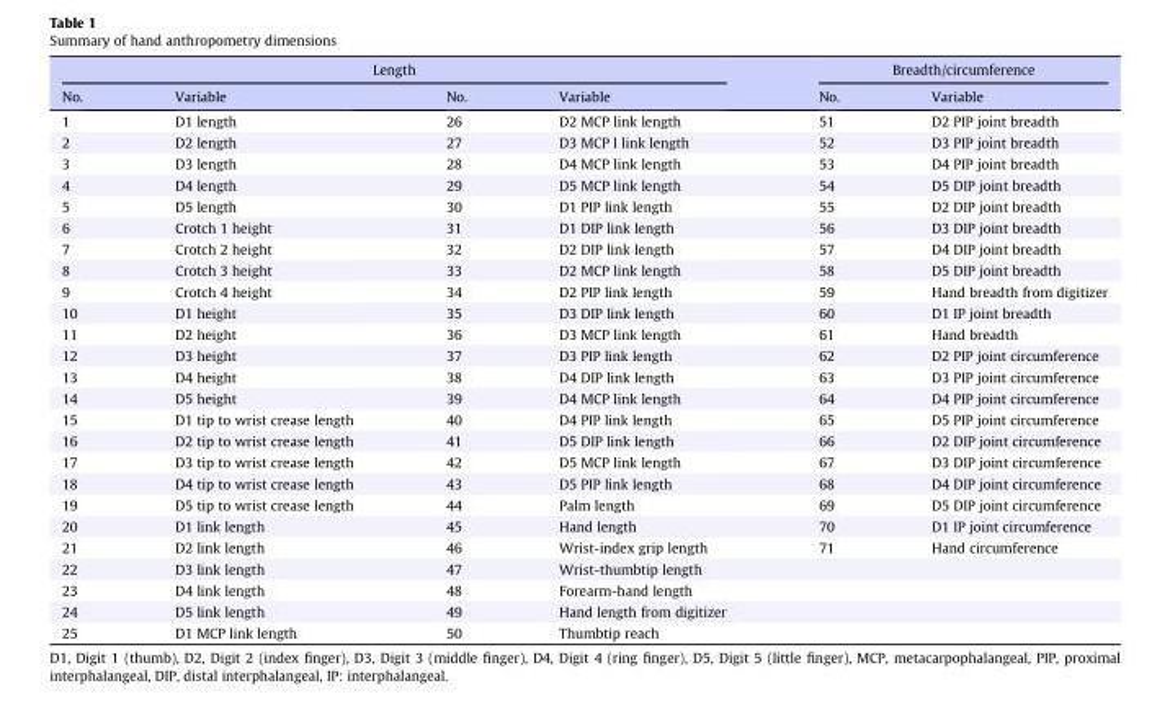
<table><thead><tr><td colspan="4">Length</td><td colspan="2">Breadth/circumference</td></tr><tr><td>No.</td><td>Variable</td><td>No.</td><td>Variable</td><td>No.</td><td>Variable</td></tr></thead><tbody><tr><td>1</td><td>D1 length</td><td>26</td><td>D2 MCP link length</td><td>51</td><td>D2 PIP joint breadth</td></tr><tr><td>2</td><td>D2 length</td><td>27</td><td>D3 MCP l link length</td><td>52</td><td>D3 PIP joint breadth</td></tr><tr><td>3</td><td>D3 length</td><td>28</td><td>D4 MCP link length</td><td>53</td><td>D4 PIP joint breadth</td></tr><tr><td>4</td><td>D4 length</td><td>29</td><td>D5 MCP link length</td><td>54</td><td>D5 DIP joint breadth</td></tr><tr><td>5</td><td>D5 length</td><td>30</td><td>D1 PIP link length</td><td>55</td><td>D2 DIP joint breadth</td></tr><tr><td>6</td><td>Crotch 1 height</td><td>31</td><td>D1 DIP link length</td><td>56</td><td>D3 DIP joint breadth</td></tr><tr><td>7</td><td>Crotch 2 height</td><td>32</td><td>D2 DIP link length</td><td>57</td><td>D4 DIP joint breadth</td></tr><tr><td>8</td><td>Crotch 3 height</td><td>33</td><td>D2 MCP link length</td><td>58</td><td>D5 DIP joint breadth</td></tr><tr><td>9</td><td>Crotch 4 height</td><td>34</td><td>D2 PIP link length</td><td>59</td><td>Hand breadth from digitizer</td></tr><tr><td>10</td><td>D1 height</td><td>35</td><td>D3 DIP link length</td><td>60</td><td>D1 IP joint breadth</td></tr><tr><td>11</td><td>D2 height</td><td>36</td><td>D3 MCP link length</td><td>61</td><td>Hand breadth</td></tr><tr><td>12</td><td>D3 height</td><td>37</td><td>D3 PIP link length</td><td>62</td><td>D2 PIP joint circumference</td></tr><tr><td>13</td><td>D4 height</td><td>38</td><td>D4 DIP link length</td><td>63</td><td>D3 PIP joint circumference</td></tr><tr><td>14</td><td>D5 height</td><td>39</td><td>D4 MCP link length</td><td>64</td><td>D4 PIP joint circumference</td></tr><tr><td>15</td><td>D1 tip to wrist crease length</td><td>40</td><td>D4 PIP link length</td><td>65</td><td>D5 PIP joint circumference</td></tr><tr><td>16</td><td>D2 tip to wrist crease length</td><td>41</td><td>D5 DIP link length</td><td>66</td><td>D2 DIP joint circumference</td></tr><tr><td>17</td><td>D3 tip to wrist crease length</td><td>42</td><td>D5 MCP link length</td><td>67</td><td>D3 DIP joint circumference</td></tr><tr><td>18</td><td>D4 tip to wrist crease length</td><td>43</td><td>D5 PIP link length</td><td>68</td><td>D4 DIP joint circumference</td></tr><tr><td>19</td><td>D5 tip to wrist crease length</td><td>44</td><td>Palm length</td><td>69</td><td>D5 DIP joint circumference</td></tr><tr><td>20</td><td>D1 link length</td><td>45</td><td>Hand length</td><td>70</td><td>D1 IP joint circumference</td></tr><tr><td>21</td><td>D2 link length</td><td>46</td><td>Wrist-index grip length</td><td>71</td><td>Hand circumference</td></tr><tr><td>22</td><td>D3 link length</td><td>47</td><td>Wrist-thumbtip length</td><td></td><td></td></tr><tr><td>23</td><td>D4 link length</td><td>48</td><td>Forearm-hand length</td><td></td><td></td></tr><tr><td>24</td><td>D5 link length</td><td>49</td><td>Hand length from digitizer</td><td></td><td></td></tr><tr><td>25</td><td>D1 MCP link length</td><td>50</td><td>Thumbtip reach</td><td></td><td></td></tr></tbody></table>